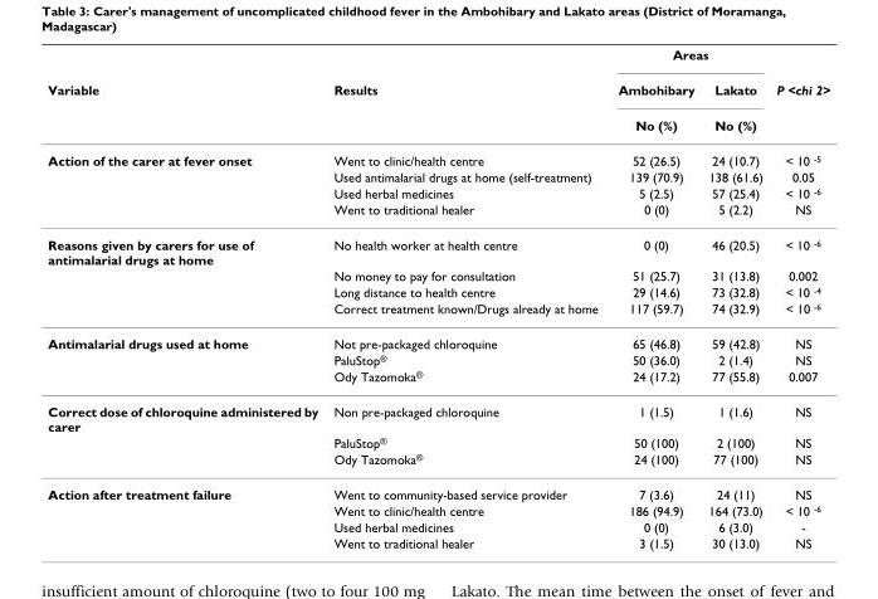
<table><thead><tr><td rowspan="3">Variable</td><td rowspan="3">Results</td><td colspan="2">Areas</td><td rowspan="3">P &lt;chi 2&gt;</td></tr><tr><td rowspan="2">Ambohibary No (%)</td><td rowspan="2">Lakato No (%)</td></tr><tr></tr></thead><tbody><tr><td rowspan="4">Action of the carer at fever onset</td><td>Went to clinic/health centre</td><td>52 (26.5)</td><td>24 (10.7)</td><td>&lt; 10 <sup>-5</sup></td></tr><tr><td>Used antimalarial drugs at home (self-treatment)</td><td>139 (70.9)</td><td>138 (61.6)</td><td>0.05</td></tr><tr><td>Used herbal medicines</td><td>5 (2.5)</td><td>57 (25.4)</td><td>&lt; 10 <sup>-6</sup></td></tr><tr><td>Went to traditional healer</td><td>0 (0)</td><td>5 (2.2)</td><td>NS</td></tr><tr><td rowspan="4">Reasons given by carers for use of antimalarial drugs at home</td><td>No health worker at health centre</td><td>0 (0)</td><td>46 (20.5)</td><td>&lt; 10 <sup>-6</sup></td></tr><tr><td>No money to pay for consultation</td><td>51 (25.7)</td><td>31 (13.8)</td><td>0.002</td></tr><tr><td>Long distance to health centre</td><td>29 (14.6)</td><td>73 (32.8)</td><td>&lt; 10 <sup>-4</sup></td></tr><tr><td>Correct treatment known/Drugs already at home</td><td>117 (59.7)</td><td>74 (32.9)</td><td>&lt; 10 <sup>-6</sup></td></tr><tr><td rowspan="3">Antimalarial drugs used at home</td><td>Not pre-packaged chloroquine</td><td>65 (46.8)</td><td>59 (42.8)</td><td>NS</td></tr><tr><td>PaluStop<sup>®</sup></td><td>50 (36.0)</td><td>2 (1.4)</td><td>NS</td></tr><tr><td>Ody Tazomoka<sup>®</sup></td><td>24 (17.2)</td><td>77 (55.8)</td><td>0.007</td></tr><tr><td rowspan="3">Correct dose of chloroquine administered by carer</td><td>Non pre-packaged chloroquine</td><td>1 (1.5)</td><td>1 (1.6)</td><td>NS</td></tr><tr><td>PaluStop<sup>®</sup></td><td>50 (100)</td><td>2 (100)</td><td>NS</td></tr><tr><td>Ody Tazomoka<sup>®</sup></td><td>24 (100)</td><td>77 (100)</td><td>NS</td></tr><tr><td rowspan="4">Action after treatment failure</td><td>Went to community-based service provider</td><td>7 (3.6)</td><td>24 (11)</td><td>NS</td></tr><tr><td>Went to clinic/health centre</td><td>186 (94.9)</td><td>164 (73.0)</td><td>&lt; 10 <sup>-6</sup></td></tr><tr><td>Used herbal medicines</td><td>0 (0)</td><td>6 (3.0)</td><td>-</td></tr><tr><td>Went to traditional healer</td><td>3 (1.5)</td><td>30 (13.0)</td><td>NS</td></tr></tbody></table>